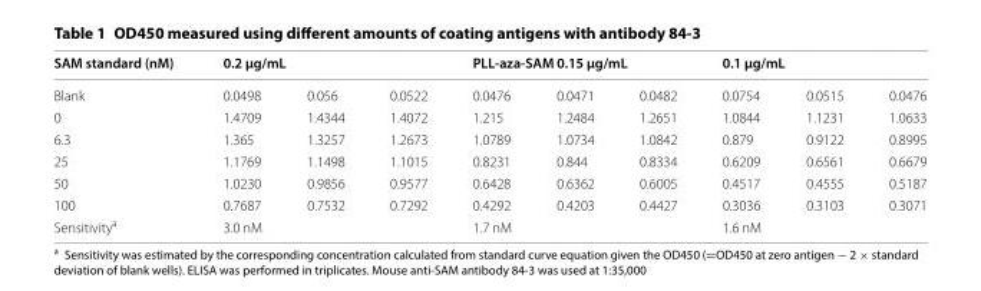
<table><thead><tr><td rowspan="2">SAM standard (nM) Blank</td><td colspan="3">0.2 µg/mL</td><td colspan="3">PLL‑aza‑SAM 0.15 µg/mL</td><td colspan="3">0.1 µg/mL</td></tr><tr><td>0.0498</td><td>0.056</td><td>0.0522</td><td>0.0476</td><td>0.0471</td><td>0.0482</td><td>0.0754</td><td>0.0515</td><td>0.0476</td></tr></thead><tbody><tr><td>0</td><td>1.4709</td><td>1.4344</td><td>1.4072</td><td>1.215</td><td>1.2484</td><td>1.2651</td><td>1.0844</td><td>1.1231</td><td>1.0633</td></tr><tr><td>6.3</td><td>1.365</td><td>1.3257</td><td>1.2673</td><td>1.0789</td><td>1.0734</td><td>1.0842</td><td>0.879</td><td>0.9122</td><td>0.8995</td></tr><tr><td>25</td><td>1.1769</td><td>1.1498</td><td>1.1015</td><td>0.8231</td><td>0.844</td><td>0.8334</td><td>0.6209</td><td>0.6561</td><td>0.6679</td></tr><tr><td>50</td><td>1.0230</td><td>0.9856</td><td>0.9577</td><td>0.6428</td><td>0.6362</td><td>0.6005</td><td>0.4517</td><td>0.4555</td><td>0.5187</td></tr><tr><td>100</td><td>0.7687</td><td>0.7532</td><td>0.7292</td><td>0.4292</td><td>0.4203</td><td>0.4427</td><td>0.3036</td><td>0.3103</td><td>0.3071</td></tr><tr><td>Sensitivity<sup>a</sup></td><td colspan="3">3.0 nM</td><td colspan="3">1.7 nM</td><td colspan="3">1.6 nM</td></tr></tbody></table>